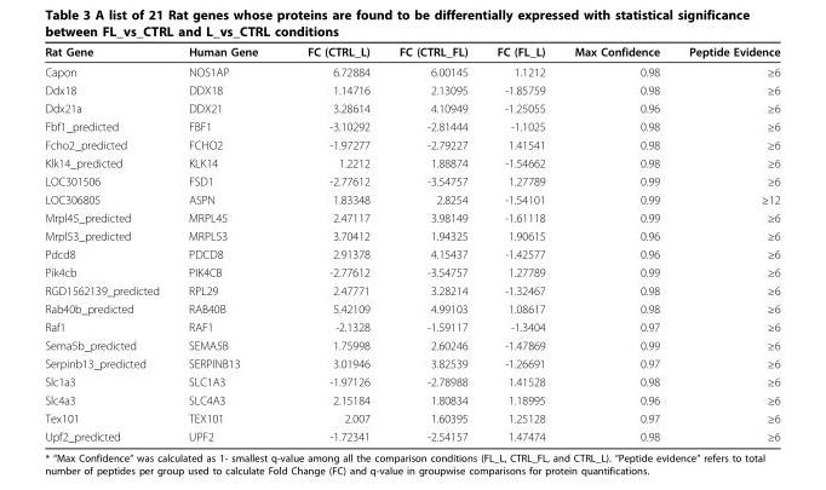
<table><thead><tr><td>Rat Gene</td><td>Human Gene</td><td>FC (CTRL_L)</td><td>FC (CTRL_FL)</td><td>FC (FL_L)</td><td>Max Confidence</td><td>Peptide Evidence</td></tr></thead><tbody><tr><td>Capon</td><td>NOS1AP</td><td>6.72884</td><td>6.00145</td><td>1.1212</td><td>0.98</td><td>≥6</td></tr><tr><td>Ddx18</td><td>DDX18</td><td>1.14716</td><td>2.13095</td><td>-1.85759</td><td>0.98</td><td>≥6</td></tr><tr><td>Ddx21a</td><td>DDX21</td><td>3.28614</td><td>4.10949</td><td>-1.25055</td><td>0.96</td><td>≥6</td></tr><tr><td>Fbf1_predicted</td><td>FBF1</td><td>-3.10292</td><td>-2.81444</td><td>-1.1025</td><td>0.98</td><td>≥6</td></tr><tr><td>Fcho2_predicted</td><td>FCHO2</td><td>-1.97277</td><td>-2.79227</td><td>1.41541</td><td>0.98</td><td>≥6</td></tr><tr><td>Klk14_predicted</td><td>KLK14</td><td>1.2212</td><td>1.88874</td><td>-1.54662</td><td>0.98</td><td>≥6</td></tr><tr><td>LOC301506</td><td>FSD1</td><td>-2.77612</td><td>-3.54757</td><td>1.27789</td><td>0.99</td><td>≥6</td></tr><tr><td>LOC306805</td><td>ASPN</td><td>1.83348</td><td>2.8254</td><td>-1.54101</td><td>0.99</td><td>≥12</td></tr><tr><td>Mrpl45_predicted</td><td>MRPL45</td><td>2.47117</td><td>3.98149</td><td>-1.61118</td><td>0.99</td><td>≥6</td></tr><tr><td>Mrpl53_predicted</td><td>MRPL53</td><td>3.70412</td><td>1.94325</td><td>1.90615</td><td>0.96</td><td>≥6</td></tr><tr><td>Pdcd8</td><td>PDCD8</td><td>2.91378</td><td>4.15437</td><td>-1.42577</td><td>0.96</td><td>≥6</td></tr><tr><td>Pik4cb</td><td>PIK4CB</td><td>-2.77612</td><td>-3.54757</td><td>1.27789</td><td>0.99</td><td>≥6</td></tr><tr><td>RGD1562139_predicted</td><td>RPL29</td><td>2.47771</td><td>3.28214</td><td>-1.32467</td><td>0.98</td><td>≥6</td></tr><tr><td>Rab40b_predicted</td><td>RAB40B</td><td>5.42109</td><td>4.99103</td><td>1.08617</td><td>0.98</td><td>≥6</td></tr><tr><td>Raf1</td><td>RAF1</td><td>-2.1328</td><td>-1.59117</td><td>-1.3404</td><td>0.97</td><td>≥6</td></tr><tr><td>Sema5b_predicted</td><td>SEMA5B</td><td>1.75998</td><td>2.60246</td><td>-1.47869</td><td>0.99</td><td>≥6</td></tr><tr><td>Serpinb13_predicted</td><td>SERPINB13</td><td>3.01946</td><td>3.82539</td><td>-1.26691</td><td>0.97</td><td>≥6</td></tr><tr><td>Slc1a3</td><td>SLC1A3</td><td>-1.97126</td><td>-2.78988</td><td>1.41528</td><td>0.98</td><td>≥6</td></tr><tr><td>Slc4a3</td><td>SLC4A3</td><td>2.15184</td><td>1.80834</td><td>1.18995</td><td>0.96</td><td>≥6</td></tr><tr><td>Tex101</td><td>TEX101</td><td>2.007</td><td>1.60395</td><td>1.25128</td><td>0.97</td><td>≥6</td></tr><tr><td>Upf2_predicted</td><td>UPF2</td><td>-1.72341</td><td>-2.54157</td><td>1.47474</td><td>0.98</td><td>≥6</td></tr></tbody></table>